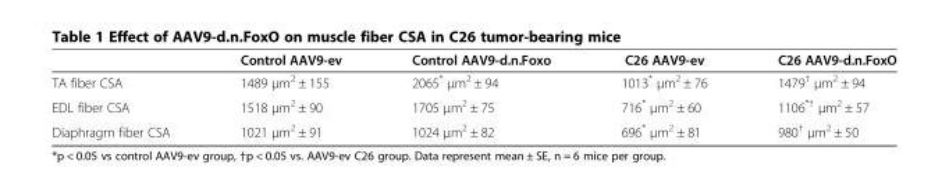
<table><thead><tr><td></td><td>Control AAV9-ev</td><td>Control AAV9-d.n.Foxo</td><td>C26 AAV9-ev</td><td>C26 AAV9-d.n.FoxO</td></tr></thead><tbody><tr><td>TA fiber CSA</td><td>1489 μm<sup>2</sup> ± 155</td><td>2065* μm<sup>2</sup> ± 94</td><td>1013* μm<sup>2</sup> ± 76</td><td>1479<sup>†</sup> μm<sup>2</sup> ± 94</td></tr><tr><td>EDL fiber CSA</td><td>1518 μm<sup>2</sup> ± 90</td><td>1705 μm<sup>2</sup> ± 75</td><td>716* μm<sup>2</sup> ± 60</td><td>1106<sup>*†</sup> μm<sup>2</sup> ± 57</td></tr><tr><td>Diaphragm fiber CSA</td><td>1021 μm<sup>2</sup> ± 91</td><td>1024 μm<sup>2</sup> ± 82</td><td>696* μm<sup>2</sup> ± 81</td><td>980<sup>†</sup> μm<sup>2</sup> ± 50</td></tr></tbody></table>